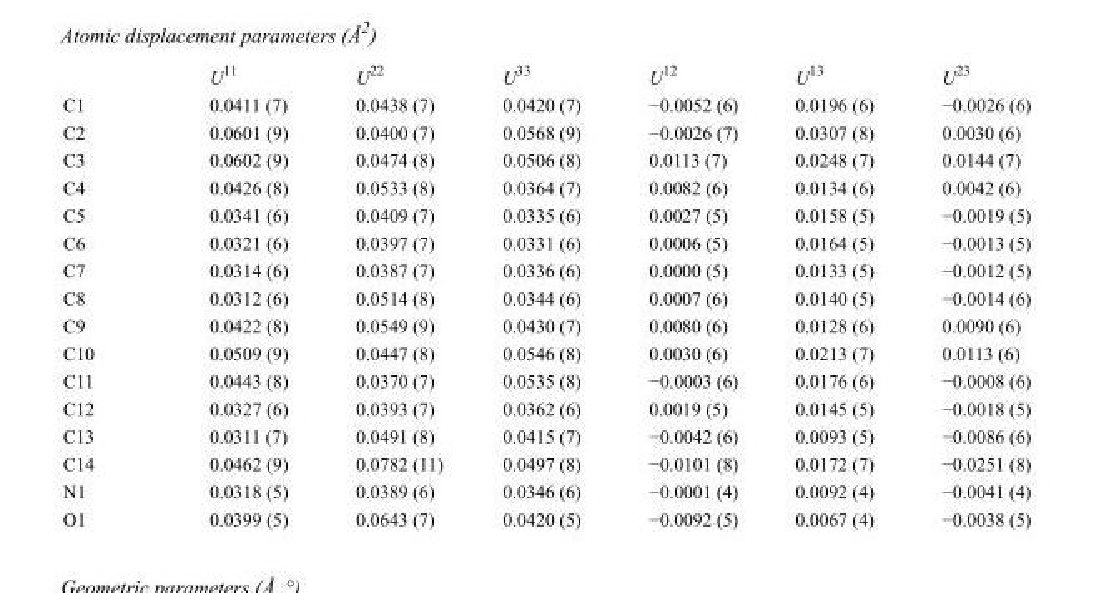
<table><thead><tr><td></td><td>U<sup>11</sup></td><td>U<sup>22</sup></td><td>U<sup>33</sup></td><td>U<sup>12</sup></td><td>U<sup>13</sup></td><td>U<sup>23</sup></td></tr></thead><tbody><tr><td>C1</td><td>0.0411 (7)</td><td>0.0438 (7)</td><td>0.0420 (7)</td><td>−0.0052 (6)</td><td>0.0196 (6)</td><td>−0.0026 (6)</td></tr><tr><td>C2</td><td>0.0601 (9)</td><td>0.0400 (7)</td><td>0.0568 (9)</td><td>−0.0026 (7)</td><td>0.0307 (8)</td><td>0.0030 (6)</td></tr><tr><td>C3</td><td>0.0602 (9)</td><td>0.0474 (8)</td><td>0.0506 (8)</td><td>0.0113 (7)</td><td>0.0248 (7)</td><td>0.0144 (7)</td></tr><tr><td>C4</td><td>0.0426 (8)</td><td>0.0533 (8)</td><td>0.0364 (7)</td><td>0.0082 (6)</td><td>0.0134 (6)</td><td>0.0042 (6)</td></tr><tr><td>C5</td><td>0.0341 (6)</td><td>0.0409 (7)</td><td>0.0335 (6)</td><td>0.0027 (5)</td><td>0.0158 (5)</td><td>−0.0019 (5)</td></tr><tr><td>C6</td><td>0.0321 (6)</td><td>0.0397 (7)</td><td>0.0331 (6)</td><td>0.0006 (5)</td><td>0.0164 (5)</td><td>−0.0013 (5)</td></tr><tr><td>C7</td><td>0.0314 (6)</td><td>0.0387 (7)</td><td>0.0336 (6)</td><td>0.0000 (5)</td><td>0.0133 (5)</td><td>−0.0012 (5)</td></tr><tr><td>C8</td><td>0.0312 (6)</td><td>0.0514 (8)</td><td>0.0344 (6)</td><td>0.0007 (6)</td><td>0.0140 (5)</td><td>−0.0014 (6)</td></tr><tr><td>C9</td><td>0.0422 (8)</td><td>0.0549 (9)</td><td>0.0430 (7)</td><td>0.0080 (6)</td><td>0.0128 (6)</td><td>0.0090 (6)</td></tr><tr><td>C10</td><td>0.0509 (9)</td><td>0.0447 (8)</td><td>0.0546 (8)</td><td>0.0030 (6)</td><td>0.0213 (7)</td><td>0.0113 (6)</td></tr><tr><td>C11</td><td>0.0443 (8)</td><td>0.0370 (7)</td><td>0.0535 (8)</td><td>−0.0003 (6)</td><td>0.0176 (6)</td><td>−0.0008 (6)</td></tr><tr><td>C12</td><td>0.0327 (6)</td><td>0.0393 (7)</td><td>0.0362 (6)</td><td>0.0019 (5)</td><td>0.0145 (5)</td><td>−0.0018 (5)</td></tr><tr><td>C13</td><td>0.0311 (7)</td><td>0.0491 (8)</td><td>0.0415 (7)</td><td>−0.0042 (6)</td><td>0.0093 (5)</td><td>−0.0086 (6)</td></tr><tr><td>C14</td><td>0.0462 (9)</td><td>0.0782 (11)</td><td>0.0497 (8)</td><td>−0.0101 (8)</td><td>0.0172 (7)</td><td>−0.0251 (8)</td></tr><tr><td>N1</td><td>0.0318 (5)</td><td>0.0389 (6)</td><td>0.0346 (6)</td><td>−0.0001 (4)</td><td>0.0092 (4)</td><td>−0.0041 (4)</td></tr><tr><td>O1</td><td>0.0399 (5)</td><td>0.0643 (7)</td><td>0.0420 (5)</td><td>−0.0092 (5)</td><td>0.0067 (4)</td><td>−0.0038 (5)</td></tr></tbody></table>